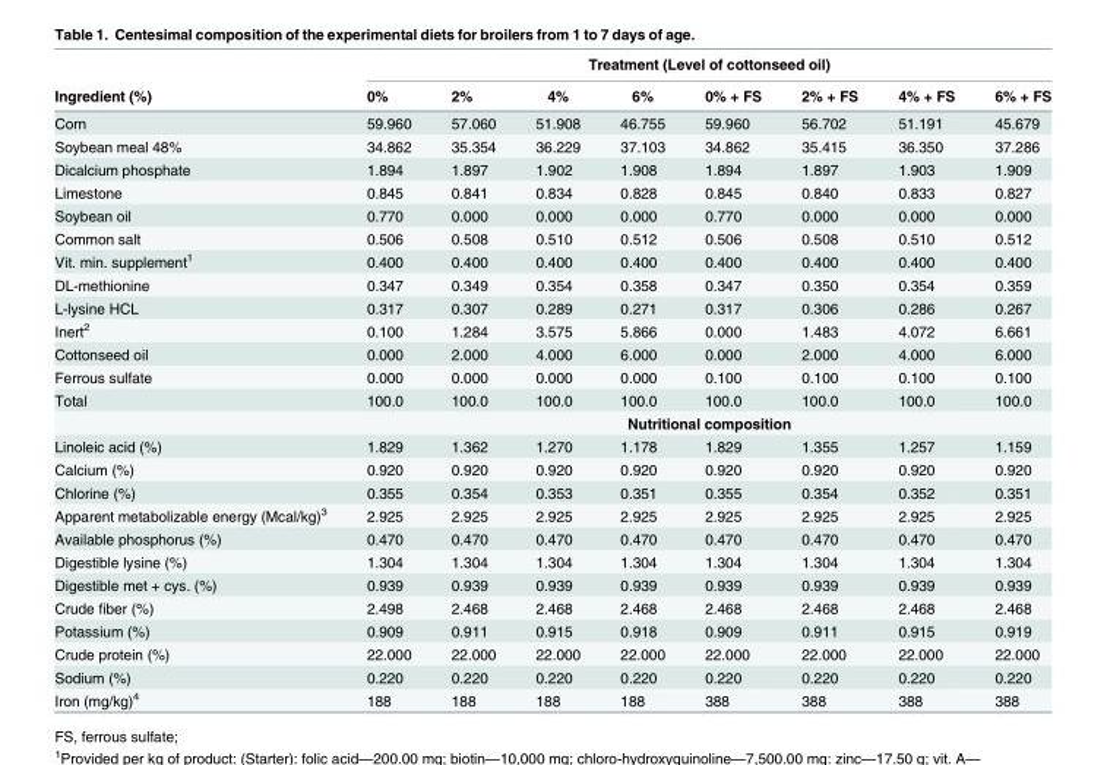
<table><thead><tr><td rowspan="2">Ingredient (%)</td><td colspan="8">Treatment (Level of cottonseed oil)</td></tr><tr><td>0%</td><td>2%</td><td>4%</td><td>6%</td><td>0% + FS</td><td>2% + FS</td><td>4% + FS</td><td>6% + FS</td></tr></thead><tbody><tr><td>Corn</td><td>59.960</td><td>57.060</td><td>51.908</td><td>46.755</td><td>59.960</td><td>56.702</td><td>51.191</td><td>45.679</td></tr><tr><td>Soybean meal 48%</td><td>34.862</td><td>35.354</td><td>36.229</td><td>37.103</td><td>34.862</td><td>35.415</td><td>36.350</td><td>37.286</td></tr><tr><td>Dicalcium phosphate</td><td>1.894</td><td>1.897</td><td>1.902</td><td>1.908</td><td>1.894</td><td>1.897</td><td>1.903</td><td>1.909</td></tr><tr><td>Limestone</td><td>0.845</td><td>0.841</td><td>0.834</td><td>0.828</td><td>0.845</td><td>0.840</td><td>0.833</td><td>0.827</td></tr><tr><td>Soybean oil</td><td>0.770</td><td>0.000</td><td>0.000</td><td>0.000</td><td>0.770</td><td>0.000</td><td>0.000</td><td>0.000</td></tr><tr><td>Common salt</td><td>0.506</td><td>0.508</td><td>0.510</td><td>0.512</td><td>0.506</td><td>0.508</td><td>0.510</td><td>0.512</td></tr><tr><td>Vit. min. supplement<sup>1</sup></td><td>0.400</td><td>0.400</td><td>0.400</td><td>0.400</td><td>0.400</td><td>0.400</td><td>0.400</td><td>0.400</td></tr><tr><td>DL-methionine</td><td>0.347</td><td>0.349</td><td>0.354</td><td>0.358</td><td>0.347</td><td>0.350</td><td>0.354</td><td>0.359</td></tr><tr><td>L-lysine HCL</td><td>0.317</td><td>0.307</td><td>0.289</td><td>0.271</td><td>0.317</td><td>0.306</td><td>0.286</td><td>0.267</td></tr><tr><td>Inert<sup>2</sup></td><td>0.100</td><td>1.284</td><td>3.575</td><td>5.866</td><td>0.000</td><td>1.483</td><td>4.072</td><td>6.661</td></tr><tr><td>Cottonseed oil</td><td>0.000</td><td>2.000</td><td>4.000</td><td>6.000</td><td>0.000</td><td>2.000</td><td>4.000</td><td>6.000</td></tr><tr><td>Ferrous sulfate</td><td>0.000</td><td>0.000</td><td>0.000</td><td>0.000</td><td>0.100</td><td>0.100</td><td>0.100</td><td>0.100</td></tr><tr><td rowspan="2">Total</td><td>100.0</td><td>100.0</td><td>100.0</td><td>100.0</td><td>100.0</td><td>100.0</td><td>100.0</td><td>100.0</td></tr><tr><td colspan="8">Nutritional composition</td></tr><tr><td>Linoleic acid (%)</td><td>1.829</td><td>1.362</td><td>1.270</td><td>1.178</td><td>1.829</td><td>1.355</td><td>1.257</td><td>1.159</td></tr><tr><td>Calcium (%)</td><td>0.920</td><td>0.920</td><td>0.920</td><td>0.920</td><td>0.920</td><td>0.920</td><td>0.920</td><td>0.920</td></tr><tr><td>Chlorine (%)</td><td>0.355</td><td>0.354</td><td>0.353</td><td>0.351</td><td>0.355</td><td>0.354</td><td>0.352</td><td>0.351</td></tr><tr><td>Apparent metabolizable energy (Mcal/kg)<sup>3</sup></td><td>2.925</td><td>2.925</td><td>2.925</td><td>2.925</td><td>2.925</td><td>2.925</td><td>2.925</td><td>2.925</td></tr><tr><td>Available phosphorus (%)</td><td>0.470</td><td>0.470</td><td>0.470</td><td>0.470</td><td>0.470</td><td>0.470</td><td>0.470</td><td>0.470</td></tr><tr><td>Digestible lysine (%)</td><td>1.304</td><td>1.304</td><td>1.304</td><td>1.304</td><td>1.304</td><td>1.304</td><td>1.304</td><td>1.304</td></tr><tr><td>Digestible met + cys. (%)</td><td>0.939</td><td>0.939</td><td>0.939</td><td>0.939</td><td>0.939</td><td>0.939</td><td>0.939</td><td>0.939</td></tr><tr><td>Crude fiber (%)</td><td>2.498</td><td>2.468</td><td>2.468</td><td>2.468</td><td>2.468</td><td>2.468</td><td>2.468</td><td>2.468</td></tr><tr><td>Potassium (%)</td><td>0.909</td><td>0.911</td><td>0.915</td><td>0.918</td><td>0.909</td><td>0.911</td><td>0.915</td><td>0.919</td></tr><tr><td>Crude protein (%)</td><td>22.000</td><td>22.000</td><td>22.000</td><td>22.000</td><td>22.000</td><td>22.000</td><td>22.000</td><td>22.000</td></tr><tr><td>Sodium (%)</td><td>0.220</td><td>0.220</td><td>0.220</td><td>0.220</td><td>0.220</td><td>0.220</td><td>0.220</td><td>0.220</td></tr><tr><td>Iron (mg/kg)<sup>4</sup></td><td>188</td><td>188</td><td>188</td><td>188</td><td>388</td><td>388</td><td>388</td><td>388</td></tr></tbody></table>